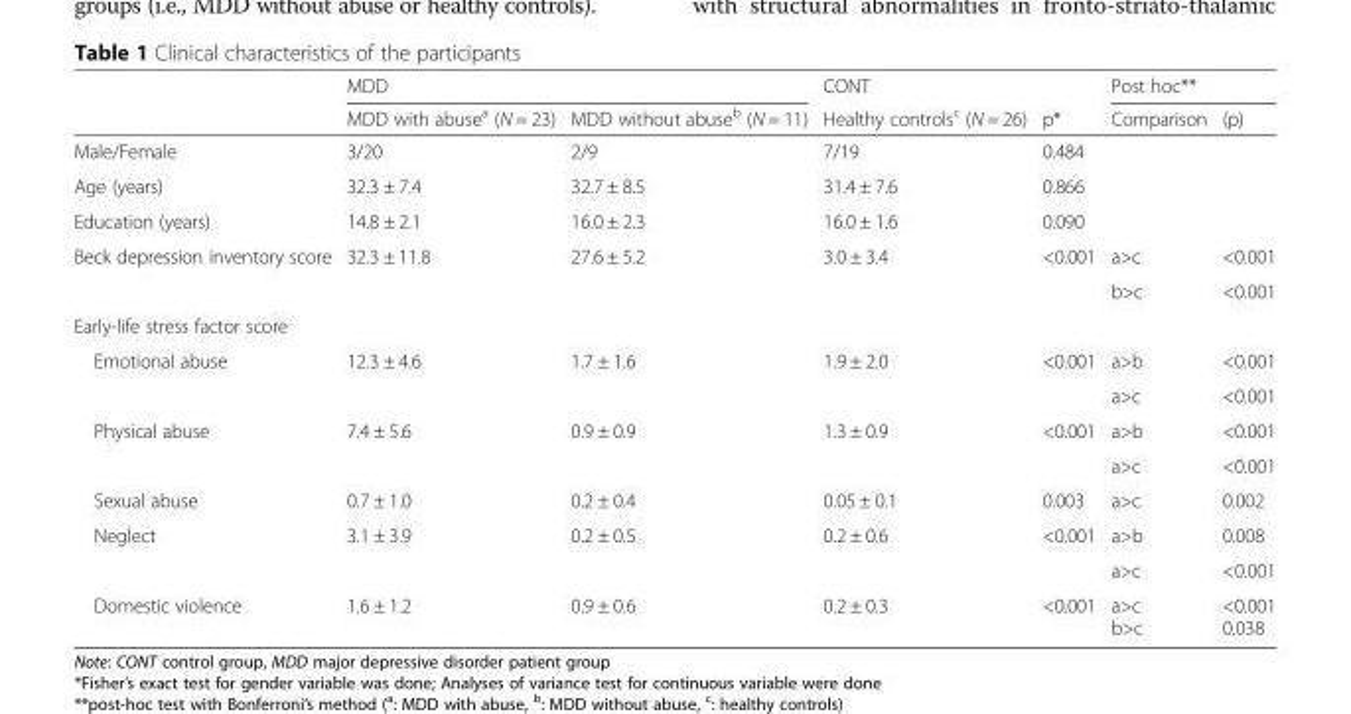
<table><thead><tr><td rowspan="2"></td><td colspan="2">MDD</td><td rowspan="2">CONT Healthy controls<sup>c</sup> (N = 26)</td><td rowspan="2">p*</td><td colspan="2">Post hoc**</td></tr><tr><td>MDD with abuse<sup>a</sup> (N = 23)</td><td>MDD without abuse<sup>b</sup> (N = 11)</td><td>Comparison</td><td>(p)</td></tr></thead><tbody><tr><td>Male/Female</td><td>3/20</td><td>2/9</td><td>7/19</td><td>0.484</td><td></td><td></td></tr><tr><td>Age (years)</td><td>32.3 ± 7.4</td><td>32.7 ± 8.5</td><td>31.4 ± 7.6</td><td>0.866</td><td></td><td></td></tr><tr><td>Education (years)</td><td>14.8 ± 2.1</td><td>16.0 ± 2.3</td><td>16.0 ± 1.6</td><td>0.090</td><td></td><td></td></tr><tr><td rowspan="2">Beck depression inventory score</td><td rowspan="2">32.3 ± 11.8</td><td rowspan="2">27.6 ± 5.2</td><td rowspan="2">3.0 ± 3.4</td><td rowspan="2">&lt;0.001</td><td>a&gt;c</td><td>&lt;0.001</td></tr><tr><td>b&gt;c</td><td>&lt;0.001</td></tr><tr><td colspan="7">Early-life stress factor score</td></tr><tr><td rowspan="2">Emotional abuse</td><td rowspan="2">12.3 ± 4.6</td><td rowspan="2">1.7 ± 1.6</td><td rowspan="2">1.9 ± 2.0</td><td rowspan="2">&lt;0.001</td><td>a&gt;b</td><td>&lt;0.001</td></tr><tr><td>a&gt;c</td><td>&lt;0.001</td></tr><tr><td rowspan="2">Physical abuse</td><td rowspan="2">7.4 ± 5.6</td><td rowspan="2">0.9 ± 0.9</td><td rowspan="2">1.3 ± 0.9</td><td rowspan="2">&lt;0.001</td><td>a&gt;b</td><td>&lt;0.001</td></tr><tr><td>a&gt;c</td><td>&lt;0.001</td></tr><tr><td>Sexual abuse</td><td>0.7 ± 1.0</td><td>0.2 ± 0.4</td><td>0.05 ± 0.1</td><td>0.003</td><td>a&gt;c</td><td>0.002</td></tr><tr><td rowspan="2">Neglect</td><td rowspan="2">3.1 ± 3.9</td><td rowspan="2">0.2 ± 0.5</td><td rowspan="2">0.2 ± 0.6</td><td rowspan="2">&lt;0.001</td><td>a&gt;b</td><td>0.008</td></tr><tr><td>a&gt;c</td><td>&lt;0.001</td></tr><tr><td>Domestic violence</td><td>1.6 ± 1.2</td><td>0.9 ± 0.6</td><td>0.2 ± 0.3</td><td>&lt;0.001</td><td>a&gt;c b&gt;c</td><td>&lt;0.001 0.038</td></tr></tbody></table>